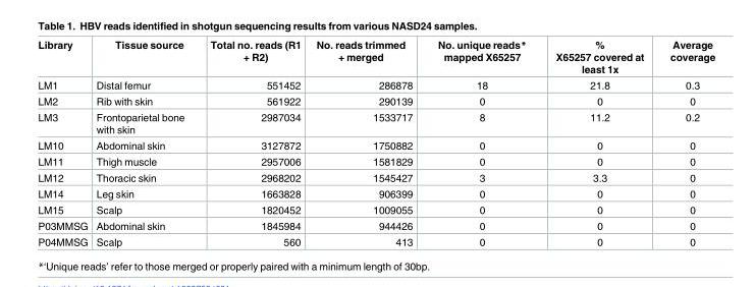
<table><thead><tr><td>Library</td><td>Tissue source</td><td>Total no. reads (R1 + R2)</td><td>No. reads trimmed + merged</td><td>No. unique reads* mapped X65257</td><td>% X65257 covered at least 1x</td><td>Average coverage</td></tr></thead><tbody><tr><td>LM1</td><td>Distal femur</td><td>551452</td><td>286878</td><td>18</td><td>21.8</td><td>0.3</td></tr><tr><td>LM2</td><td>Rib with skin</td><td>561922</td><td>290139</td><td>0</td><td>0</td><td>0</td></tr><tr><td>LM3</td><td>Frontoparietal bone with skin</td><td>2987034</td><td>1533717</td><td>8</td><td>11.2</td><td>0.2</td></tr><tr><td>LM10</td><td>Abdominal skin</td><td>3127872</td><td>1750882</td><td>0</td><td>0</td><td>0</td></tr><tr><td>LM11</td><td>Thigh muscle</td><td>2957006</td><td>1581829</td><td>0</td><td>0</td><td>0</td></tr><tr><td>LM12</td><td>Thoracic skin</td><td>2968202</td><td>1545427</td><td>3</td><td>3.3</td><td>0</td></tr><tr><td>LM14</td><td>Leg skin</td><td>1663828</td><td>906399</td><td>0</td><td>0</td><td>0</td></tr><tr><td>LM15</td><td>Scalp</td><td>1820452</td><td>1009055</td><td>0</td><td>0</td><td>0</td></tr><tr><td>P03MMSG</td><td>Abdominal skin</td><td>1845984</td><td>944426</td><td>0</td><td>0</td><td>0</td></tr><tr><td>P04MMSG</td><td>Scalp</td><td>560</td><td>413</td><td>0</td><td>0</td><td>0</td></tr></tbody></table>